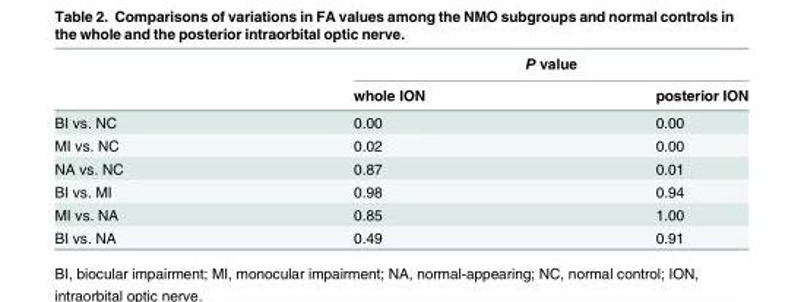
<table><thead><tr><td rowspan="2"></td><td colspan="2">P value</td></tr><tr><td>whole ION</td><td>posterior ION</td></tr></thead><tbody><tr><td>BI vs. NC</td><td>0.00</td><td>0.00</td></tr><tr><td>MI vs. NC</td><td>0.02</td><td>0.00</td></tr><tr><td>NA vs. NC</td><td>0.87</td><td>0.01</td></tr><tr><td>BI vs. MI</td><td>0.98</td><td>0.94</td></tr><tr><td>MI vs. NA</td><td>0.85</td><td>1.00</td></tr><tr><td>BI vs. NA</td><td>0.49</td><td>0.91</td></tr></tbody></table>